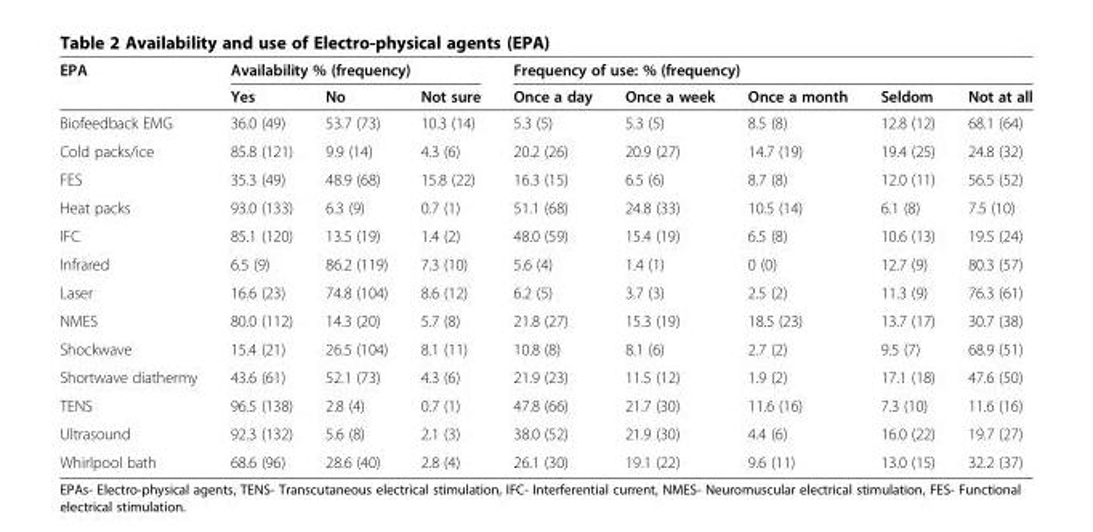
<table><thead><tr><td rowspan="2">EPA</td><td colspan="3">Availability % (frequency)</td><td colspan="5">Frequency of use: % (frequency)</td></tr><tr><td>Yes</td><td>No</td><td>Not sure</td><td>Once a day</td><td>Once a week</td><td>Once a month</td><td>Seldom</td><td>Not at all</td></tr></thead><tbody><tr><td>Biofeedback EMG</td><td>36.0 (49)</td><td>53.7 (73)</td><td>10.3 (14)</td><td>5.3 (5)</td><td>5.3 (5)</td><td>8.5 (8)</td><td>12.8 (12)</td><td>68.1 (64)</td></tr><tr><td>Cold packs/ice</td><td>85.8 (121)</td><td>9.9 (14)</td><td>4.3 (6)</td><td>20.2 (26)</td><td>20.9 (27)</td><td>14.7 (19)</td><td>19.4 (25)</td><td>24.8 (32)</td></tr><tr><td>FES</td><td>35.3 (49)</td><td>48.9 (68)</td><td>15.8 (22)</td><td>16.3 (15)</td><td>6.5 (6)</td><td>8.7 (8)</td><td>12.0 (11)</td><td>56.5 (52)</td></tr><tr><td>Heat packs</td><td>93.0 (133)</td><td>6.3 (9)</td><td>0.7 (1)</td><td>51.1 (68)</td><td>24.8 (33)</td><td>10.5 (14)</td><td>6.1 (8)</td><td>7.5 (10)</td></tr><tr><td>IFC</td><td>85.1 (120)</td><td>13.5 (19)</td><td>1.4 (2)</td><td>48.0 (59)</td><td>15.4 (19)</td><td>6.5 (8)</td><td>10.6 (13)</td><td>19.5 (24)</td></tr><tr><td>Infrared</td><td>6.5 (9)</td><td>86.2 (119)</td><td>7.3 (10)</td><td>5.6 (4)</td><td>1.4 (1)</td><td>0 (0)</td><td>12.7 (9)</td><td>80.3 (57)</td></tr><tr><td>Laser</td><td>16.6 (23)</td><td>74.8 (104)</td><td>8.6 (12)</td><td>6.2 (5)</td><td>3.7 (3)</td><td>2.5 (2)</td><td>11.3 (9)</td><td>76.3 (61)</td></tr><tr><td>NMES</td><td>80.0 (112)</td><td>14.3 (20)</td><td>5.7 (8)</td><td>21.8 (27)</td><td>15.3 (19)</td><td>18.5 (23)</td><td>13.7 (17)</td><td>30.7 (38)</td></tr><tr><td>Shockwave</td><td>15.4 (21)</td><td>26.5 (104)</td><td>8.1 (11)</td><td>10.8 (8)</td><td>8.1 (6)</td><td>2.7 (2)</td><td>9.5 (7)</td><td>68.9 (51)</td></tr><tr><td>Shortwave diathermy</td><td>43.6 (61)</td><td>52.1 (73)</td><td>4.3 (6)</td><td>21.9 (23)</td><td>11.5 (12)</td><td>1.9 (2)</td><td>17.1 (18)</td><td>47.6 (50)</td></tr><tr><td>TENS</td><td>96.5 (138)</td><td>2.8 (4)</td><td>0.7 (1)</td><td>47.8 (66)</td><td>21.7 (30)</td><td>11.6 (16)</td><td>7.3 (10)</td><td>11.6 (16)</td></tr><tr><td>Ultrasound</td><td>92.3 (132)</td><td>5.6 (8)</td><td>2.1 (3)</td><td>38.0 (52)</td><td>21.9 (30)</td><td>4.4 (6)</td><td>16.0 (22)</td><td>19.7 (27)</td></tr><tr><td>Whirlpool bath</td><td>68.6 (96)</td><td>28.6 (40)</td><td>2.8 (4)</td><td>26.1 (30)</td><td>19.1 (22)</td><td>9.6 (11)</td><td>13.0 (15)</td><td>32.2 (37)</td></tr></tbody></table>